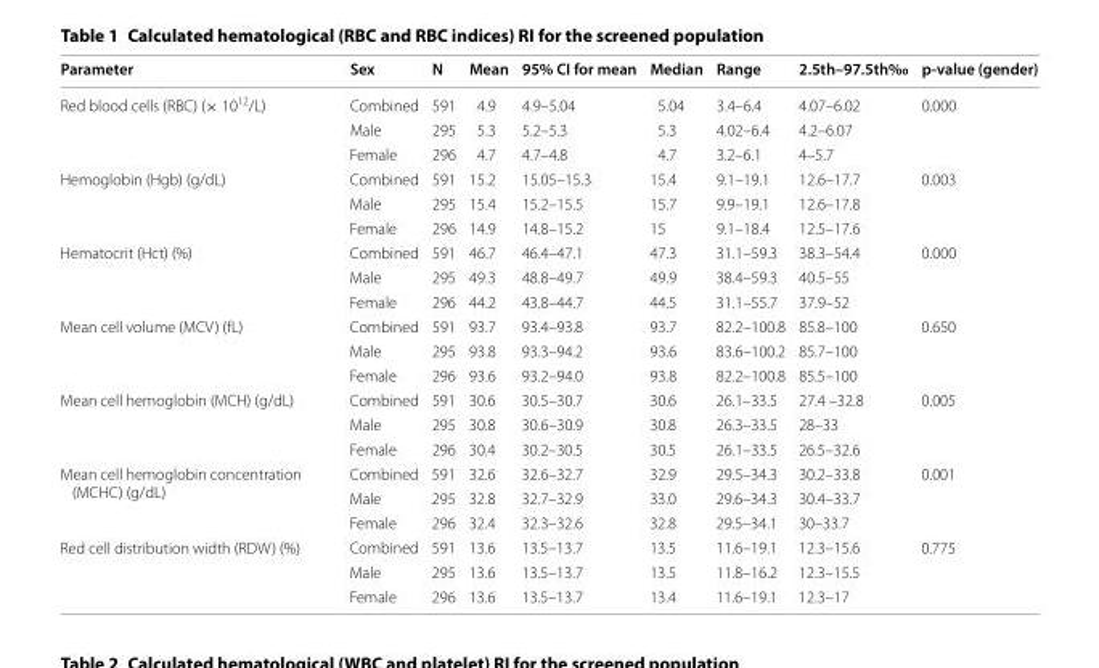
<table><thead><tr><td>Parameter</td><td>Sex</td><td>N</td><td>Mean</td><td>95% CI for mean</td><td>Median</td><td>Range</td><td>2.5th–97.5th‰</td><td>p-value (gender)</td></tr></thead><tbody><tr><td rowspan="3">Red blood cells (RBC) (× 10<sup>12</sup>/L)</td><td>Combined</td><td>591</td><td>4.9</td><td>4.9–5.04</td><td>5.04</td><td>3.4–6.4</td><td>4.07–6.02</td><td rowspan="3">0.000</td></tr><tr><td>Male</td><td>295</td><td>5.3</td><td>5.2–5.3</td><td>5.3</td><td>4.02–6.4</td><td>4.2–6.07</td></tr><tr><td>Female</td><td>296</td><td>4.7</td><td>4.7–4.8</td><td>4.7</td><td>3.2–6.1</td><td>4–5.7</td></tr><tr><td rowspan="3">Hemoglobin (Hgb) (g/dL)</td><td>Combined</td><td>591</td><td>15.2</td><td>15.05–15.3</td><td>15.4</td><td>9.1–19.1</td><td>12.6–17.7</td><td rowspan="3">0.003</td></tr><tr><td>Male</td><td>295</td><td>15.4</td><td>15.2–15.5</td><td>15.7</td><td>9.9–19.1</td><td>12.6–17.8</td></tr><tr><td>Female</td><td>296</td><td>14.9</td><td>14.8–15.2</td><td>15</td><td>9.1–18.4</td><td>12.5–17.6</td></tr><tr><td rowspan="3">Hematocrit (Hct) (%)</td><td>Combined</td><td>591</td><td>46.7</td><td>46.4–47.1</td><td>47.3</td><td>31.1–59.3</td><td>38.3–54.4</td><td rowspan="3">0.000</td></tr><tr><td>Male</td><td>295</td><td>49.3</td><td>48.8–49.7</td><td>49.9</td><td>38.4–59.3</td><td>40.5–55</td></tr><tr><td>Female</td><td>296</td><td>44.2</td><td>43.8–44.7</td><td>44.5</td><td>31.1–55.7</td><td>37.9–52</td></tr><tr><td rowspan="3">Mean cell volume (MCV) (fL)</td><td>Combined</td><td>591</td><td>93.7</td><td>93.4–93.8</td><td>93.7</td><td>82.2–100.8</td><td>85.8–100</td><td rowspan="3">0.650</td></tr><tr><td>Male</td><td>295</td><td>93.8</td><td>93.3–94.2</td><td>93.6</td><td>83.6–100.2</td><td>85.7–100</td></tr><tr><td>Female</td><td>296</td><td>93.6</td><td>93.2–94.0</td><td>93.8</td><td>82.2–100.8</td><td>85.5–100</td></tr><tr><td rowspan="3">Mean cell hemoglobin (MCH) (g/dL)</td><td>Combined</td><td>591</td><td>30.6</td><td>30.5–30.7</td><td>30.6</td><td>26.1–33.5</td><td>27.4 –32.8</td><td rowspan="3">0.005</td></tr><tr><td>Male</td><td>295</td><td>30.8</td><td>30.6–30.9</td><td>30.8</td><td>26.3–33.5</td><td>28–33</td></tr><tr><td>Female</td><td>296</td><td>30.4</td><td>30.2–30.5</td><td>30.5</td><td>26.1–33.5</td><td>26.5–32.6</td></tr><tr><td rowspan="3">Mean cell hemoglobin concentration (MCHC) (g/dL)</td><td>Combined</td><td>591</td><td>32.6</td><td>32.6–32.7</td><td>32.9</td><td>29.5–34.3</td><td>30.2–33.8</td><td rowspan="3">0.001</td></tr><tr><td>Male</td><td>295</td><td>32.8</td><td>32.7–32.9</td><td>33.0</td><td>29.6–34.3</td><td>30.4–33.7</td></tr><tr><td>Female</td><td>296</td><td>32.4</td><td>32.3–32.6</td><td>32.8</td><td>29.5–34.1</td><td>30–33.7</td></tr><tr><td rowspan="3">Red cell distribution width (RDW) (%)</td><td>Combined</td><td>591</td><td>13.6</td><td>13.5–13.7</td><td>13.5</td><td>11.6–19.1</td><td>12.3–15.6</td><td rowspan="3">0.775</td></tr><tr><td>Male</td><td>295</td><td>13.6</td><td>13.5–13.7</td><td>13.5</td><td>11.8–16.2</td><td>12.3–15.5</td></tr><tr><td>Female</td><td>296</td><td>13.6</td><td>13.5–13.7</td><td>13.4</td><td>11.6–19.1</td><td>12.3–17</td></tr></tbody></table>